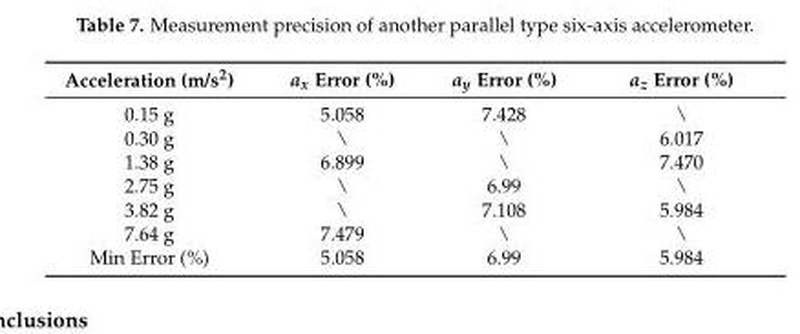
<table><thead><tr><td>Acceleration (m/s<sup>2</sup>)</td><td>a<sub>x</sub> Error (%)</td><td>a<sub>y</sub> Error (%)</td><td>a<sub>z</sub> Error (%)</td></tr></thead><tbody><tr><td>0.15 g</td><td>5.058</td><td>7.428</td><td>\</td></tr><tr><td>0.30 g</td><td>\</td><td>\</td><td>6.017</td></tr><tr><td>1.38 g</td><td>6.899</td><td>\</td><td>7.470</td></tr><tr><td>2.75 g</td><td>\</td><td>6.99</td><td>\</td></tr><tr><td>3.82 g</td><td>\</td><td>7.108</td><td>5.984</td></tr><tr><td>7.64 g</td><td>7.479</td><td>\</td><td>\</td></tr><tr><td>Min Error (%)</td><td>5.058</td><td>6.99</td><td>5.984</td></tr></tbody></table>